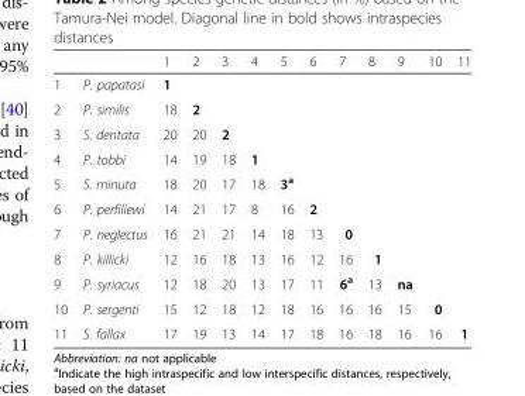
<table><thead><tr><td></td><td></td><td>1</td><td>2</td><td>3</td><td>4</td><td>5</td><td>6</td><td>7</td><td>8</td><td>9</td><td>10</td><td>11</td></tr></thead><tbody><tr><td>1</td><td>P. papatasi</td><td>1</td><td></td><td></td><td></td><td></td><td></td><td></td><td></td><td></td><td></td><td></td></tr><tr><td>2</td><td>P. similis</td><td>18</td><td>2</td><td></td><td></td><td></td><td></td><td></td><td></td><td></td><td></td><td></td></tr><tr><td>3</td><td>S. dentata</td><td>20</td><td>20</td><td>2</td><td></td><td></td><td></td><td></td><td></td><td></td><td></td><td></td></tr><tr><td>4</td><td>P. tobbi</td><td>14</td><td>19</td><td>18</td><td>1</td><td></td><td></td><td></td><td></td><td></td><td></td><td></td></tr><tr><td>5</td><td>S. minuta</td><td>18</td><td>20</td><td>17</td><td>18</td><td>3<sup>a</sup></td><td></td><td></td><td></td><td></td><td></td><td></td></tr><tr><td>6</td><td>P. perfiliewi</td><td>14</td><td>21</td><td>17</td><td>8</td><td>16</td><td>2</td><td></td><td></td><td></td><td></td><td></td></tr><tr><td>7</td><td>P. neglectus</td><td>16</td><td>21</td><td>21</td><td>14</td><td>18</td><td>13</td><td>0</td><td></td><td></td><td></td><td></td></tr><tr><td>8</td><td>P. killicki</td><td>12</td><td>16</td><td>18</td><td>13</td><td>16</td><td>12</td><td>16</td><td>1</td><td></td><td></td><td></td></tr><tr><td>9</td><td>P. syriacus</td><td>12</td><td>18</td><td>20</td><td>13</td><td>17</td><td>11</td><td>6<sup>a</sup></td><td>13</td><td>na</td><td></td><td></td></tr><tr><td>10</td><td>P. sergenti</td><td>15</td><td>12</td><td>18</td><td>12</td><td>18</td><td>16</td><td>16</td><td>16</td><td>15</td><td>0</td><td></td></tr><tr><td>11</td><td>S. fallax</td><td>17</td><td>19</td><td>13</td><td>14</td><td>17</td><td>18</td><td>16</td><td>18</td><td>16</td><td>16</td><td>1</td></tr></tbody></table>